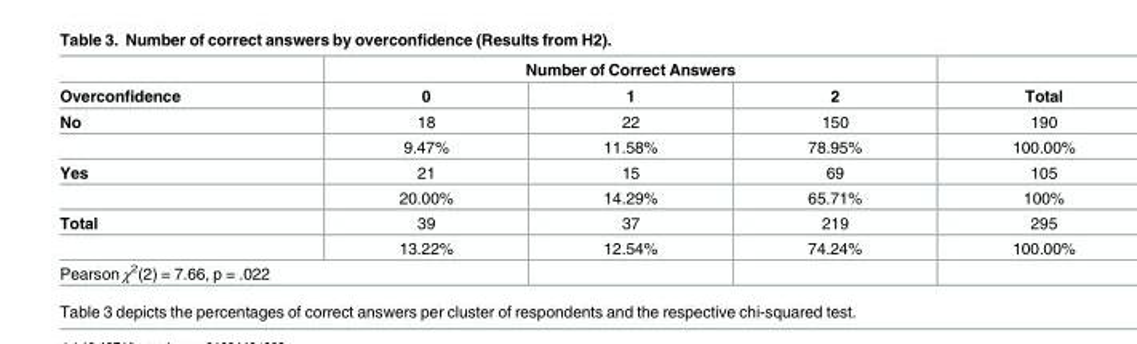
<table><thead><tr><td rowspan="2">Overconfidence</td><td colspan="3">Number of Correct Answers</td><td rowspan="2">Total</td></tr><tr><td>0</td><td>1</td><td>2</td></tr></thead><tbody><tr><td rowspan="2">No</td><td>18</td><td>22</td><td>150</td><td>190</td></tr><tr><td>9.47%</td><td>11.58%</td><td>78.95%</td><td>100.00%</td></tr><tr><td rowspan="2">Yes</td><td>21</td><td>15</td><td>69</td><td>105</td></tr><tr><td>20.00%</td><td>14.29%</td><td>65.71%</td><td>100%</td></tr><tr><td rowspan="2">Total</td><td>39</td><td>37</td><td>219</td><td>295</td></tr><tr><td>13.22%</td><td>12.54%</td><td>74.24%</td><td>100.00%</td></tr><tr><td colspan="2">Pearson χ<sup>2</sup>(2) = 7.66, p = .022</td><td></td><td></td><td></td></tr></tbody></table>